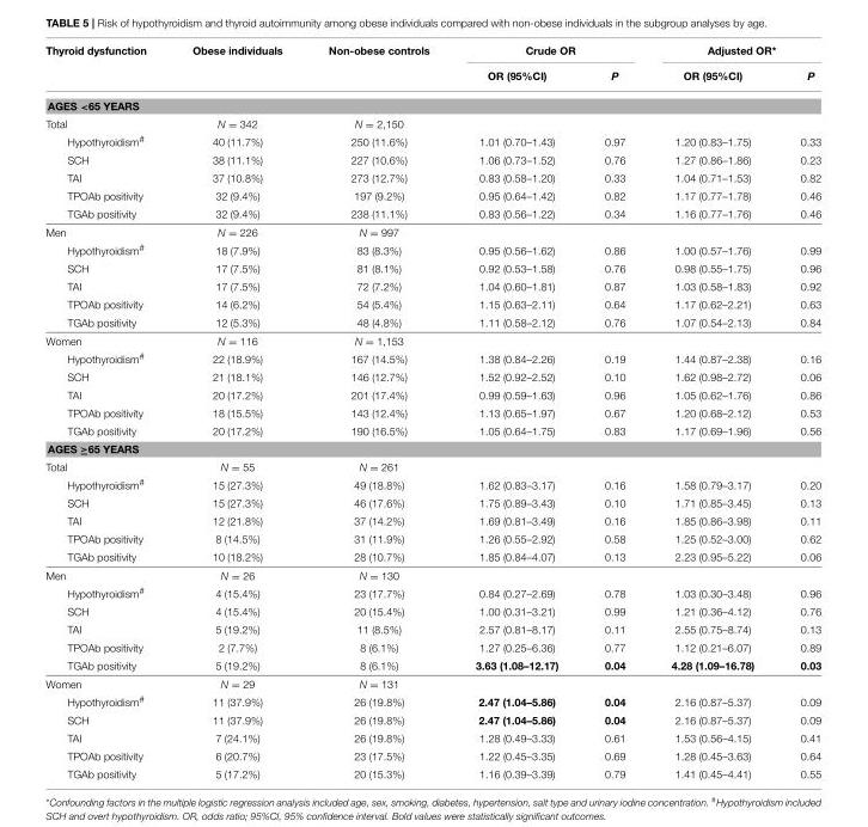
<table><thead><tr><td rowspan="2">Thyroid dysfunction</td><td rowspan="2">Obese individuals</td><td rowspan="2">Non-obese controls</td><td colspan="2">Crude OR</td><td colspan="2">Adjusted OR*</td></tr><tr><td>OR (95%CI)</td><td>P</td><td>OR (95%CI)</td><td>P</td></tr></thead><tbody><tr><td colspan="7">AGES &lt;65 YEARS</td></tr><tr><td>Total</td><td>N = 342</td><td>N = 2,150</td><td></td><td></td><td></td><td></td></tr><tr><td>Hypothyroidism<sup>#</sup></td><td>40 (11.7%)</td><td>250 (11.6%)</td><td>1.01 (0.70–1.43)</td><td>0.97</td><td>1.20 (0.83–1.75)</td><td>0.33</td></tr><tr><td>SCH</td><td>38 (11.1%)</td><td>227 (10.6%)</td><td>1.06 (0.73–1.52)</td><td>0.76</td><td>1.27 (0.86–1.86)</td><td>0.23</td></tr><tr><td>TAI</td><td>37 (10.8%)</td><td>273 (12.7%)</td><td>0.83 (0.58–1.20)</td><td>0.33</td><td>1.04 (0.71–1.53)</td><td>0.82</td></tr><tr><td>TPOAb positivity</td><td>32 (9.4%)</td><td>197 (9.2%)</td><td>0.95 (0.64–1.42)</td><td>0.82</td><td>1.17 (0.77–1.78)</td><td>0.46</td></tr><tr><td>TGAb positivity</td><td>32 (9.4%)</td><td>238 (11.1%)</td><td>0.83 (0.56–1.22)</td><td>0.34</td><td>1.16 (0.77–1.76)</td><td>0.46</td></tr><tr><td>Men</td><td>N = 226</td><td>N = 997</td><td></td><td></td><td></td><td></td></tr><tr><td>Hypothyroidism<sup>#</sup></td><td>18 (7.9%)</td><td>83 (8.3%)</td><td>0.95 (0.56–1.62)</td><td>0.86</td><td>1.00 (0.57–1.76)</td><td>0.99</td></tr><tr><td>SCH</td><td>17 (7.5%)</td><td>81 (8.1%)</td><td>0.92 (0.53–1.58)</td><td>0.76</td><td>0.98 (0.55–1.75)</td><td>0.96</td></tr><tr><td>TAI</td><td>17 (7.5%)</td><td>72 (7.2%)</td><td>1.04 (0.60–1.81)</td><td>0.87</td><td>1.03 (0.58–1.83)</td><td>0.92</td></tr><tr><td>TPOAb positivity</td><td>14 (6.2%)</td><td>54 (5.4%)</td><td>1.15 (0.63–2.11)</td><td>0.64</td><td>1.17 (0.62–2.21)</td><td>0.63</td></tr><tr><td>TGAb positivity</td><td>12 (5.3%)</td><td>48 (4.8%)</td><td>1.11 (0.58–2.12)</td><td>0.76</td><td>1.07 (0.54–2.13)</td><td>0.84</td></tr><tr><td>Women</td><td>N = 116</td><td>N = 1,153</td><td></td><td></td><td></td><td></td></tr><tr><td>Hypothyroidism<sup>#</sup></td><td>22 (18.9%)</td><td>167 (14.5%)</td><td>1.38 (0.84–2.26)</td><td>0.19</td><td>1.44 (0.87–2.38)</td><td>0.16</td></tr><tr><td>SCH</td><td>21 (18.1%)</td><td>146 (12.7%)</td><td>1.52 (0.92–2.52)</td><td>0.10</td><td>1.62 (0.98–2.72)</td><td>0.06</td></tr><tr><td>TAI</td><td>20 (17.2%)</td><td>201 (17.4%)</td><td>0.99 (0.59–1.63)</td><td>0.96</td><td>1.05 (0.62–1.76)</td><td>0.86</td></tr><tr><td>TPOAb positivity</td><td>18 (15.5%)</td><td>143 (12.4%)</td><td>1.13 (0.65–1.97)</td><td>0.67</td><td>1.20 (0.68–2.12)</td><td>0.53</td></tr><tr><td>TGAb positivity</td><td>20 (17.2%)</td><td>190 (16.5%)</td><td>1.05 (0.64–1.75)</td><td>0.83</td><td>1.17 (0.69–1.96)</td><td>0.56</td></tr><tr><td colspan="7">AGES ≥65 YEARS</td></tr><tr><td>Total</td><td>N = 55</td><td>N = 261</td><td></td><td></td><td></td><td></td></tr><tr><td>Hypothyroidism<sup>#</sup></td><td>15 (27.3%)</td><td>49 (18.8%)</td><td>1.62 (0.83–3.17)</td><td>0.16</td><td>1.58 (0.79–3.17)</td><td>0.20</td></tr><tr><td>SCH</td><td>15 (27.3%)</td><td>46 (17.6%)</td><td>1.75 (0.89–3.43)</td><td>0.10</td><td>1.71 (0.85–3.45)</td><td>0.13</td></tr><tr><td>TAI</td><td>12 (21.8%)</td><td>37 (14.2%)</td><td>1.69 (0.81–3.49)</td><td>0.16</td><td>1.85 (0.86–3.98)</td><td>0.11</td></tr><tr><td>TPOAb positivity</td><td>8 (14.5%)</td><td>31 (11.9%)</td><td>1.26 (0.55–2.92)</td><td>0.58</td><td>1.25 (0.52–3.00)</td><td>0.62</td></tr><tr><td>TGAb positivity</td><td>10 (18.2%)</td><td>28 (10.7%)</td><td>1.85 (0.84–4.07)</td><td>0.13</td><td>2.23 (0.95–5.22)</td><td>0.06</td></tr><tr><td>Men</td><td>N = 26</td><td>N = 130</td><td></td><td></td><td></td><td></td></tr><tr><td>Hypothyroidism<sup>#</sup></td><td>4 (15.4%)</td><td>23 (17.7%)</td><td>0.84 (0.27–2.69)</td><td>0.78</td><td>1.03 (0.30–3.48)</td><td>0.96</td></tr><tr><td>SCH</td><td>4 (15.4%)</td><td>20 (15.4%)</td><td>1.00 (0.31–3.21)</td><td>0.99</td><td>1.21 (0.36–4.12)</td><td>0.76</td></tr><tr><td>TAI</td><td>5 (19.2%)</td><td>11 (8.5%)</td><td>2.57 (0.81–8.17)</td><td>0.11</td><td>2.55 (0.75–8.74)</td><td>0.13</td></tr><tr><td>TPOAb positivity</td><td>2 (7.7%)</td><td>8 (6.1%)</td><td>1.27 (0.25–6.36)</td><td>0.77</td><td>1.12 (0.21–6.07)</td><td>0.89</td></tr><tr><td>TGAb positivity</td><td>5 (19.2%)</td><td>8 (6.1%)</td><td>3.63 (1.08–12.17)</td><td>0.04</td><td>4.28 (1.09–16.78)</td><td>0.03</td></tr><tr><td>Women</td><td>N = 29</td><td>N = 131</td><td></td><td></td><td></td><td></td></tr><tr><td>Hypothyroidism<sup>#</sup></td><td>11 (37.9%)</td><td>26 (19.8%)</td><td>2.47 (1.04–5.86)</td><td>0.04</td><td>2.16 (0.87–5.37)</td><td>0.09</td></tr><tr><td>SCH</td><td>11 (37.9%)</td><td>26 (19.8%)</td><td>2.47 (1.04–5.86)</td><td>0.04</td><td>2.16 (0.87–5.37)</td><td>0.09</td></tr><tr><td>TAI</td><td>7 (24.1%)</td><td>26 (19.8%)</td><td>1.28 (0.49–3.33)</td><td>0.61</td><td>1.53 (0.56–4.15)</td><td>0.41</td></tr><tr><td>TPOAb positivity</td><td>6 (20.7%)</td><td>23 (17.5%)</td><td>1.22 (0.45–3.35)</td><td>0.69</td><td>1.28 (0.45–3.63)</td><td>0.64</td></tr><tr><td>TGAb positivity</td><td>5 (17.2%)</td><td>20 (15.3%)</td><td>1.16 (0.39–3.39)</td><td>0.79</td><td>1.41 (0.45–4.41)</td><td>0.55</td></tr></tbody></table>